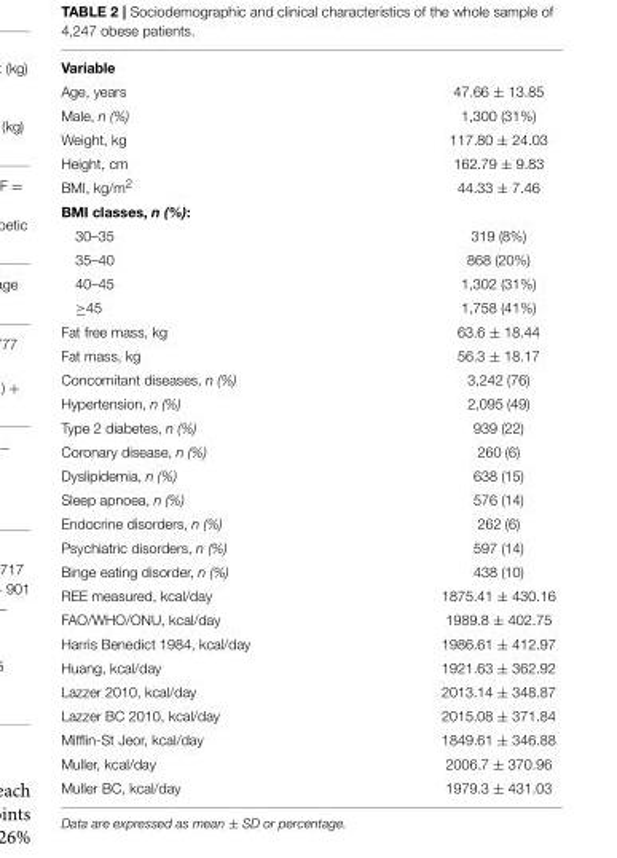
<table><tbody><tr><td colspan="2">Variable</td></tr><tr><td>Age, years</td><td>47.66 ± 13.85</td></tr><tr><td>Male, n (%)</td><td>1,300 (31%)</td></tr><tr><td>Weight, kg</td><td>117.80 ± 24.03</td></tr><tr><td>Height, cm</td><td>162.79 ± 9.83</td></tr><tr><td>BMI, kg/m<sup>2</sup></td><td>44.33 ± 7.46</td></tr><tr><td colspan="2">BMI classes, n (%):</td></tr><tr><td>30–35</td><td>319 (8%)</td></tr><tr><td>35–40</td><td>868 (20%)</td></tr><tr><td>40–45</td><td>1,302 (31%)</td></tr><tr><td>≥45</td><td>1,758 (41%)</td></tr><tr><td>Fat free mass, kg</td><td>63.6 ± 18.44</td></tr><tr><td>Fat mass, kg</td><td>56.3 ± 18.17</td></tr><tr><td>Concomitant diseases, n (%)</td><td>3,242 (76)</td></tr><tr><td>Hypertension, n (%)</td><td>2,095 (49)</td></tr><tr><td>Type 2 diabetes, n (%)</td><td>939 (22)</td></tr><tr><td>Coronary disease, n (%)</td><td>260 (6)</td></tr><tr><td>Dyslipidemia, n (%)</td><td>638 (15)</td></tr><tr><td>Sleep apnoea, n (%)</td><td>576 (14)</td></tr><tr><td>Endocrine disorders, n (%)</td><td>262 (6)</td></tr><tr><td>Psychiatric disorders, n (%)</td><td>597 (14)</td></tr><tr><td>Binge eating disorder, n (%)</td><td>438 (10)</td></tr><tr><td>REE measured, kcal/day</td><td>1875.41 ± 430.16</td></tr><tr><td>FAO/WHO/ONU, kcal/day</td><td>1989.8 ± 402.75</td></tr><tr><td>Harris Benedict 1984, kcal/day</td><td>1986.61 ± 412.97</td></tr><tr><td>Huang, kcal/day</td><td>1921.63 ± 362.92</td></tr><tr><td>Lazzer 2010, kcal/day</td><td>2013.14 ± 348.87</td></tr><tr><td>Lazzer BC 2010, kcal/day</td><td>2015.08 ± 371.84</td></tr><tr><td>Mifflin-St Jeor, kcal/day</td><td>1849.61 ± 346.88</td></tr><tr><td>Muller, kcal/day</td><td>2006.7 ± 370.96</td></tr><tr><td>Muller BC, kcal/day</td><td>1979.3 ± 431.03</td></tr></tbody></table>